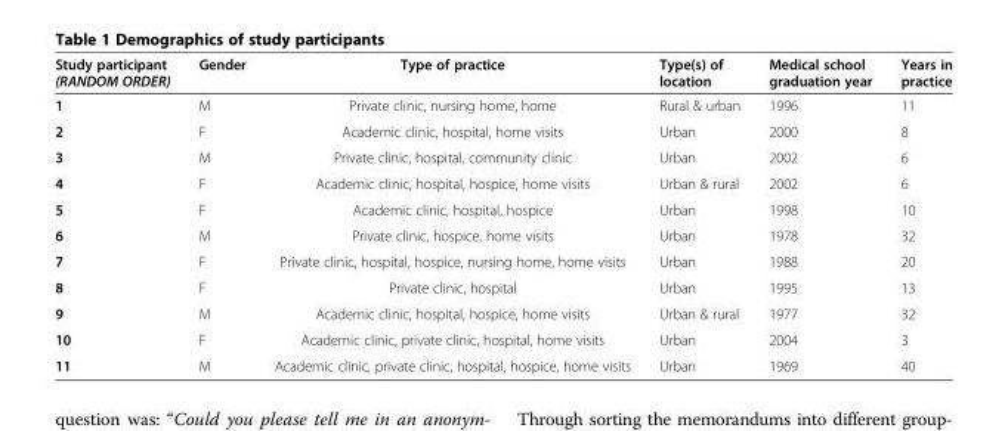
<table><thead><tr><td>Study participant (RANDOM ORDER)</td><td>Gender</td><td>Type of practice</td><td>Type(s) of location</td><td>Medical school graduation year</td><td>Years in practice</td></tr></thead><tbody><tr><td>1</td><td>M</td><td>Private clinic, nursing home, home</td><td>Rural &amp; urban</td><td>1996</td><td>11</td></tr><tr><td>2</td><td>F</td><td>Academic clinic, hospital, home visits</td><td>Urban</td><td>2000</td><td>8</td></tr><tr><td>3</td><td>M</td><td>Private clinic, hospital, community clinic</td><td>Urban</td><td>2002</td><td>6</td></tr><tr><td>4</td><td>F</td><td>Academic clinic, hospital, hospice, home visits</td><td>Urban &amp; rural</td><td>2002</td><td>6</td></tr><tr><td>5</td><td>F</td><td>Academic clinic, hospital, hospice</td><td>Urban</td><td>1998</td><td>10</td></tr><tr><td>6</td><td>M</td><td>Private clinic, hospice, home visits</td><td>Urban</td><td>1978</td><td>32</td></tr><tr><td>7</td><td>F</td><td>Private clinic, hospital, hospice, nursing home, home visits</td><td>Urban</td><td>1988</td><td>20</td></tr><tr><td>8</td><td>F</td><td>Private clinic, hospital</td><td>Urban</td><td>1995</td><td>13</td></tr><tr><td>9</td><td>M</td><td>Academic clinic, hospital, hospice, home visits</td><td>Urban &amp; rural</td><td>1977</td><td>32</td></tr><tr><td>10</td><td>F</td><td>Academic clinic, private clinic, hospital, home visits</td><td>Urban</td><td>2004</td><td>3</td></tr><tr><td>11</td><td>M</td><td>Academic clinic, private clinic, hospital, hospice, home visits</td><td>Urban</td><td>1969</td><td>40</td></tr></tbody></table>